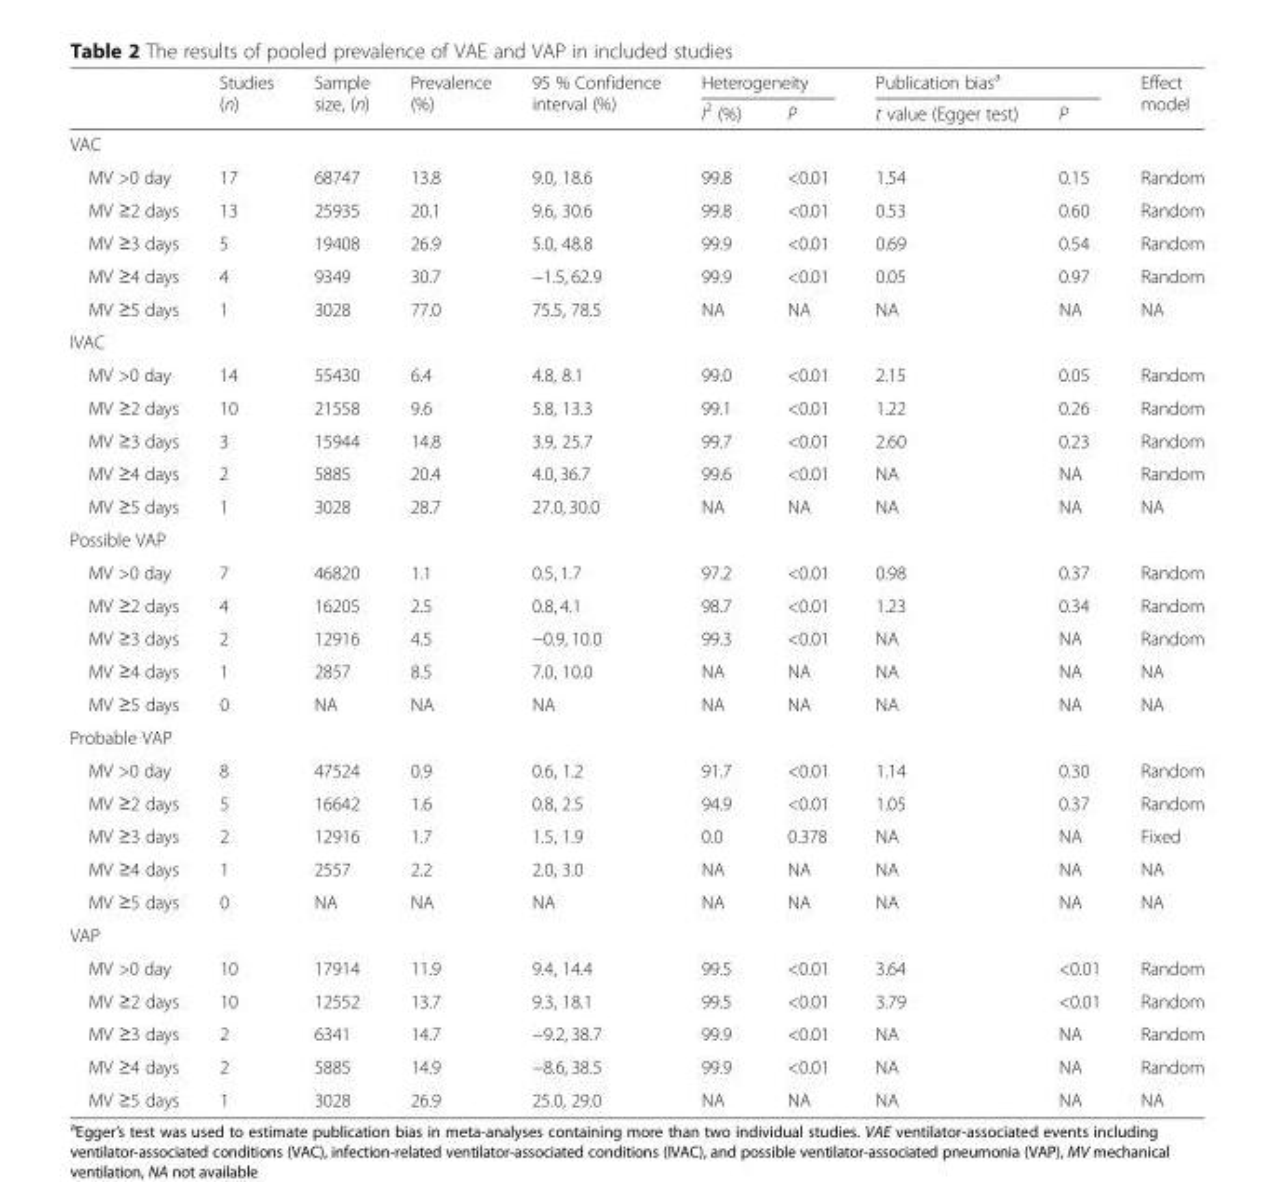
<table><thead><tr><td rowspan="2"></td><td rowspan="2">Studies (n)</td><td rowspan="2">Sample size, (n)</td><td rowspan="2">Prevalence (%)</td><td rowspan="2">95 % Confidence interval (%)</td><td colspan="2">Heterogeneity</td><td colspan="2">Publication bias<sup>a</sup></td><td rowspan="2">Effect model</td></tr><tr><td>I<sup>2</sup> (%)</td><td>P</td><td>t value (Egger test)</td><td>P</td></tr></thead><tbody><tr><td colspan="10">VAC</td></tr><tr><td>MV &gt;0 day</td><td>17</td><td>68747</td><td>13.8</td><td>9.0, 18.6</td><td>99.8</td><td>&lt;0.01</td><td>1.54</td><td>0.15</td><td>Random</td></tr><tr><td>MV ≥2 days</td><td>13</td><td>25935</td><td>20.1</td><td>9.6, 30.6</td><td>99.8</td><td>&lt;0.01</td><td>0.53</td><td>0.60</td><td>Random</td></tr><tr><td>MV ≥3 days</td><td>5</td><td>19408</td><td>26.9</td><td>5.0, 48.8</td><td>99.9</td><td>&lt;0.01</td><td>0.69</td><td>0.54</td><td>Random</td></tr><tr><td>MV ≥4 days</td><td>4</td><td>9349</td><td>30.7</td><td>−1.5, 62.9</td><td>99.9</td><td>&lt;0.01</td><td>0.05</td><td>0.97</td><td>Random</td></tr><tr><td>MV ≥5 days</td><td>1</td><td>3028</td><td>77.0</td><td>75.5, 78.5</td><td>NA</td><td>NA</td><td>NA</td><td>NA</td><td>NA</td></tr><tr><td colspan="10">IVAC</td></tr><tr><td>MV &gt;0 day</td><td>14</td><td>55430</td><td>6.4</td><td>4.8, 8.1</td><td>99.0</td><td>&lt;0.01</td><td>2.15</td><td>0.05</td><td>Random</td></tr><tr><td>MV ≥2 days</td><td>10</td><td>21558</td><td>9.6</td><td>5.8, 13.3</td><td>99.1</td><td>&lt;0.01</td><td>1.22</td><td>0.26</td><td>Random</td></tr><tr><td>MV ≥3 days</td><td>3</td><td>15944</td><td>14.8</td><td>3.9, 25.7</td><td>99.7</td><td>&lt;0.01</td><td>2.60</td><td>0.23</td><td>Random</td></tr><tr><td>MV ≥4 days</td><td>2</td><td>5885</td><td>20.4</td><td>4.0, 36.7</td><td>99.6</td><td>&lt;0.01</td><td>NA</td><td>NA</td><td>Random</td></tr><tr><td>MV ≥5 days</td><td>1</td><td>3028</td><td>28.7</td><td>27.0, 30.0</td><td>NA</td><td>NA</td><td>NA</td><td>NA</td><td>NA</td></tr><tr><td colspan="10">Possible VAP</td></tr><tr><td>MV &gt;0 day</td><td>7</td><td>46820</td><td>1.1</td><td>0.5, 1.7</td><td>97.2</td><td>&lt;0.01</td><td>0.98</td><td>0.37</td><td>Random</td></tr><tr><td>MV ≥2 days</td><td>4</td><td>16205</td><td>2.5</td><td>0.8, 4.1</td><td>98.7</td><td>&lt;0.01</td><td>1.23</td><td>0.34</td><td>Random</td></tr><tr><td>MV ≥3 days</td><td>2</td><td>12916</td><td>4.5</td><td>−0.9, 10.0</td><td>99.3</td><td>&lt;0.01</td><td>NA</td><td>NA</td><td>Random</td></tr><tr><td>MV ≥4 days</td><td>1</td><td>2857</td><td>8.5</td><td>7.0, 10.0</td><td>NA</td><td>NA</td><td>NA</td><td>NA</td><td>NA</td></tr><tr><td>MV ≥5 days</td><td>0</td><td>NA</td><td>NA</td><td>NA</td><td>NA</td><td>NA</td><td>NA</td><td>NA</td><td>NA</td></tr><tr><td colspan="10">Probable VAP</td></tr><tr><td>MV &gt;0 day</td><td>8</td><td>47524</td><td>0.9</td><td>0.6, 1.2</td><td>91.7</td><td>&lt;0.01</td><td>1.14</td><td>0.30</td><td>Random</td></tr><tr><td>MV ≥2 days</td><td>5</td><td>16642</td><td>1.6</td><td>0.8, 2.5</td><td>94.9</td><td>&lt;0.01</td><td>1.05</td><td>0.37</td><td>Random</td></tr><tr><td>MV ≥3 days</td><td>2</td><td>12916</td><td>1.7</td><td>1.5, 1.9</td><td>0.0</td><td>0.378</td><td>NA</td><td>NA</td><td>Fixed</td></tr><tr><td>MV ≥4 days</td><td>1</td><td>2557</td><td>2.2</td><td>2.0, 3.0</td><td>NA</td><td>NA</td><td>NA</td><td>NA</td><td>NA</td></tr><tr><td>MV ≥5 days</td><td>0</td><td>NA</td><td>NA</td><td>NA</td><td>NA</td><td>NA</td><td>NA</td><td>NA</td><td>NA</td></tr><tr><td colspan="10">VAP</td></tr><tr><td>MV &gt;0 day</td><td>10</td><td>17914</td><td>11.9</td><td>9.4, 14.4</td><td>99.5</td><td>&lt;0.01</td><td>3.64</td><td>&lt;0.01</td><td>Random</td></tr><tr><td>MV ≥2 days</td><td>10</td><td>12552</td><td>13.7</td><td>9.3, 18.1</td><td>99.5</td><td>&lt;0.01</td><td>3.79</td><td>&lt;0.01</td><td>Random</td></tr><tr><td>MV ≥3 days</td><td>2</td><td>6341</td><td>14.7</td><td>−9.2, 38.7</td><td>99.9</td><td>&lt;0.01</td><td>NA</td><td>NA</td><td>Random</td></tr><tr><td>MV ≥4 days</td><td>2</td><td>5885</td><td>14.9</td><td>−8.6, 38.5</td><td>99.9</td><td>&lt;0.01</td><td>NA</td><td>NA</td><td>Random</td></tr><tr><td>MV ≥5 days</td><td>1</td><td>3028</td><td>26.9</td><td>25.0, 29.0</td><td>NA</td><td>NA</td><td>NA</td><td>NA</td><td>NA</td></tr></tbody></table>